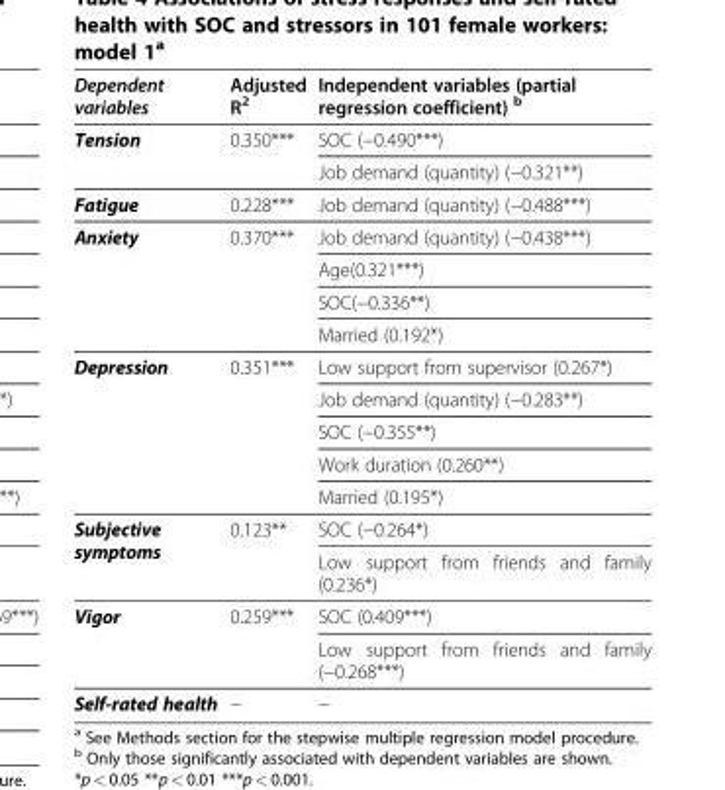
<table><thead><tr><td>Dependent variables</td><td>Adjusted R<sup>2</sup></td><td>Independent variables (partial regression coefficient) <sup>b</sup></td></tr></thead><tbody><tr><td rowspan="2">Tension</td><td rowspan="2">0.350***</td><td>SOC (−0.490***)</td></tr><tr><td>Job demand (quantity) (−0.321**)</td></tr><tr><td>Fatigue</td><td>0.228***</td><td>Job demand (quantity) (−0.488***)</td></tr><tr><td rowspan="4">Anxiety</td><td rowspan="4">0.370***</td><td>Job demand (quantity) (−0.438***)</td></tr><tr><td>Age(0.321***)</td></tr><tr><td>SOC(−0.336**)</td></tr><tr><td>Married (0.192*)</td></tr><tr><td rowspan="5">Depression</td><td rowspan="5">0.351***</td><td>Low support from supervisor (0.267*)</td></tr><tr><td>Job demand (quantity) (−0.283**)</td></tr><tr><td>SOC (−0.355**)</td></tr><tr><td>Work duration (0.260**)</td></tr><tr><td>Married (0.195*)</td></tr><tr><td rowspan="2">Subjective symptoms</td><td rowspan="2">0.123**</td><td>SOC (−0.264*)</td></tr><tr><td>Low support from friends and family (0.236*)</td></tr><tr><td rowspan="2">Vigor</td><td rowspan="2">0.259***</td><td>SOC (0.409***)</td></tr><tr><td>Low support from friends and family (−0.268***)</td></tr><tr><td>Self-rated health</td><td>−</td><td>−</td></tr></tbody></table>